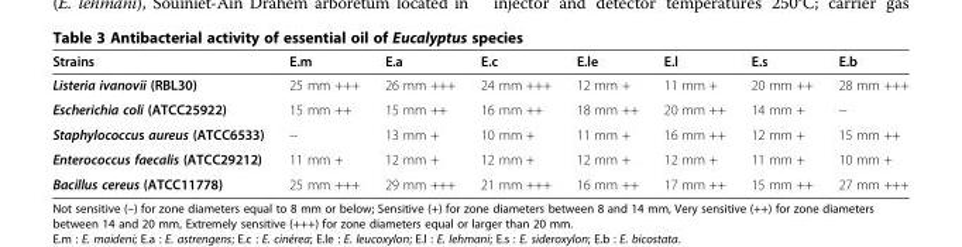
<table><thead><tr><td>Strains</td><td>E.m</td><td>E.a</td><td>E.c</td><td>E.le</td><td>E.l</td><td>E.s</td><td>E.b</td></tr></thead><tbody><tr><td>Listeria ivanovii (RBL30)</td><td>25 mm +++</td><td>26 mm +++</td><td>24 mm +++</td><td>12 mm +</td><td>11 mm +</td><td>20 mm ++</td><td>28 mm +++</td></tr><tr><td>Escherichia coli (ATCC25922)</td><td>15 mm ++</td><td>15 mm ++</td><td>16 mm ++</td><td>18 mm ++</td><td>20 mm ++</td><td>14 mm +</td><td>--</td></tr><tr><td>Staphylococcus aureus (ATCC6533)</td><td>--</td><td>13 mm +</td><td>10 mm +</td><td>11 mm +</td><td>16 mm ++</td><td>12 mm +</td><td>15 mm ++</td></tr><tr><td>Enterococcus faecalis (ATCC29212)</td><td>11 mm +</td><td>12 mm +</td><td>12 mm +</td><td>12 mm +</td><td>12 mm +</td><td>11 mm +</td><td>10 mm +</td></tr><tr><td>Bacillus cereus (ATCC11778)</td><td>25 mm +++</td><td>29 mm +++</td><td>21 mm +++</td><td>16 mm ++</td><td>17 mm ++</td><td>15 mm ++</td><td>27 mm +++</td></tr></tbody></table>